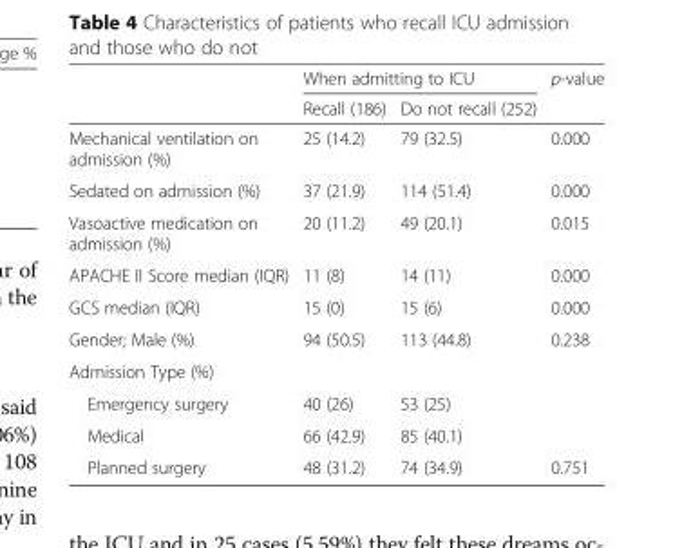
<table><thead><tr><td rowspan="2"></td><td colspan="2">When admitting to ICU</td><td rowspan="2">p-value</td></tr><tr><td>Recall (186)</td><td>Do not recall (252)</td></tr></thead><tbody><tr><td>Mechanical ventilation on admission (%)</td><td>25 (14.2)</td><td>79 (32.5)</td><td>0.000</td></tr><tr><td>Sedated on admission (%)</td><td>37 (21.9)</td><td>114 (51.4)</td><td>0.000</td></tr><tr><td>Vasoactive medication on admission (%)</td><td>20 (11.2)</td><td>49 (20.1)</td><td>0.015</td></tr><tr><td>APACHE II Score median (IQR)</td><td>11 (8)</td><td>14 (11)</td><td>0.000</td></tr><tr><td>GCS median (IQR)</td><td>15 (0)</td><td>15 (6)</td><td>0.000</td></tr><tr><td>Gender; Male (%)</td><td>94 (50.5)</td><td>113 (44.8)</td><td>0.238</td></tr><tr><td colspan="4">Admission Type (%)</td></tr><tr><td>Emergency surgery</td><td>40 (26)</td><td>53 (25)</td><td></td></tr><tr><td>Medical</td><td>66 (42.9)</td><td>85 (40.1)</td><td></td></tr><tr><td>Planned surgery</td><td>48 (31.2)</td><td>74 (34.9)</td><td>0.751</td></tr></tbody></table>